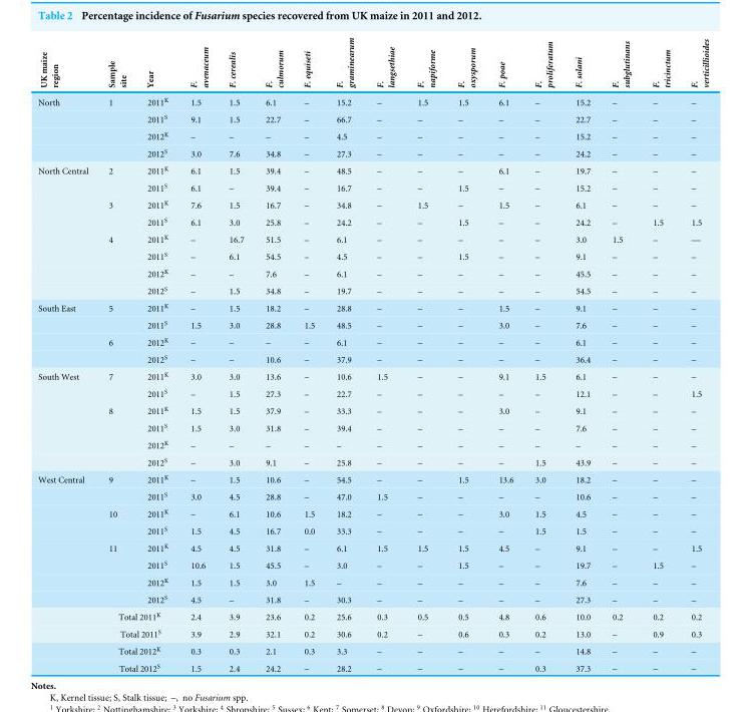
<table><thead><tr><td>UK maize region</td><td>Sample site</td><td>Year</td><td>F. avenaceum</td><td>F. cerealis</td><td>F. culmorum</td><td>F. equiseti</td><td>F. graminearum</td><td>F. langsethiae</td><td>F. napiforme</td><td>F. oxysporum</td><td>F. poae</td><td>F. proliferatum</td><td>F. solani</td><td>F. subglutinans</td><td>F. tricinctum</td><td>F. verticillioides</td></tr></thead><tbody><tr><td rowspan="4">North</td><td>1</td><td>2011<sup>K</sup></td><td>1.5</td><td>1.5</td><td>6.1</td><td>–</td><td>15.2</td><td>–</td><td>1.5</td><td>1.5</td><td>6.1</td><td>–</td><td>15.2</td><td>–</td><td>–</td><td>–</td></tr><tr><td></td><td>2011<sup>S</sup></td><td>9.1</td><td>1.5</td><td>22.7</td><td>–</td><td>66.7</td><td>–</td><td>–</td><td>–</td><td>–</td><td>–</td><td>22.7</td><td>–</td><td>–</td><td>–</td></tr><tr><td></td><td>2012<sup>K</sup></td><td>–</td><td>–</td><td>–</td><td>–</td><td>4.5</td><td>–</td><td>–</td><td>–</td><td>–</td><td>–</td><td>15.2</td><td>–</td><td>–</td><td>–</td></tr><tr><td></td><td>2012<sup>S</sup></td><td>3.0</td><td>7.6</td><td>34.8</td><td>–</td><td>27.3</td><td>–</td><td>–</td><td>–</td><td>–</td><td>–</td><td>24.2</td><td>–</td><td>–</td><td>–</td></tr><tr><td rowspan="8">North Central</td><td>2</td><td>2011<sup>K</sup></td><td>6.1</td><td>1.5</td><td>39.4</td><td>–</td><td>48.5</td><td>–</td><td>–</td><td>–</td><td>6.1</td><td>–</td><td>19.7</td><td>–</td><td>–</td><td>–</td></tr><tr><td></td><td>2011<sup>S</sup></td><td>6.1</td><td>–</td><td>39.4</td><td>–</td><td>16.7</td><td>–</td><td>–</td><td>1.5</td><td>–</td><td>–</td><td>15.2</td><td>–</td><td>–</td><td>–</td></tr><tr><td>3</td><td>2011<sup>K</sup></td><td>7.6</td><td>1.5</td><td>16.7</td><td>–</td><td>34.8</td><td>–</td><td>1.5</td><td>–</td><td>1.5</td><td>–</td><td>6.1</td><td>–</td><td>–</td><td>–</td></tr><tr><td></td><td>2011<sup>S</sup></td><td>6.1</td><td>3.0</td><td>25.8</td><td>–</td><td>24.2</td><td>–</td><td>–</td><td>1.5</td><td>–</td><td>–</td><td>24.2</td><td>–</td><td>1.5</td><td>1.5</td></tr><tr><td>4</td><td>2011<sup>K</sup></td><td>–</td><td>16.7</td><td>51.5</td><td>–</td><td>6.1</td><td>–</td><td>–</td><td>–</td><td>–</td><td>–</td><td>3.0</td><td>1.5</td><td>–</td><td>—</td></tr><tr><td></td><td>2011<sup>S</sup></td><td>–</td><td>6.1</td><td>54.5</td><td>–</td><td>4.5</td><td>–</td><td>–</td><td>1.5</td><td>–</td><td>–</td><td>9.1</td><td>–</td><td>–</td><td>–</td></tr><tr><td></td><td>2012<sup>K</sup></td><td>–</td><td>–</td><td>7.6</td><td>–</td><td>6.1</td><td>–</td><td>–</td><td>–</td><td>–</td><td>–</td><td>45.5</td><td>–</td><td>–</td><td>–</td></tr><tr><td></td><td>2012<sup>S</sup></td><td>–</td><td>1.5</td><td>34.8</td><td>–</td><td>19.7</td><td>–</td><td>–</td><td>–</td><td>–</td><td>–</td><td>54.5</td><td>–</td><td>–</td><td>–</td></tr><tr><td rowspan="4">South East</td><td>5</td><td>2011<sup>K</sup></td><td>–</td><td>1.5</td><td>18.2</td><td>–</td><td>28.8</td><td>–</td><td>–</td><td>–</td><td>1.5</td><td>–</td><td>9.1</td><td>–</td><td>–</td><td>–</td></tr><tr><td></td><td>2011<sup>S</sup></td><td>1.5</td><td>3.0</td><td>28.8</td><td>1.5</td><td>48.5</td><td>–</td><td>–</td><td>–</td><td>3.0</td><td>–</td><td>7.6</td><td>–</td><td>–</td><td>–</td></tr><tr><td>6</td><td>2012<sup>K</sup></td><td>–</td><td>–</td><td>–</td><td>–</td><td>6.1</td><td>–</td><td>–</td><td>–</td><td>–</td><td>–</td><td>6.1</td><td>–</td><td>–</td><td>–</td></tr><tr><td></td><td>2012<sup>S</sup></td><td>–</td><td>–</td><td>10.6</td><td>–</td><td>37.9</td><td>–</td><td>–</td><td>–</td><td>–</td><td>–</td><td>36.4</td><td>–</td><td>–</td><td>–</td></tr><tr><td rowspan="6">South West</td><td>7</td><td>2011<sup>K</sup></td><td>3.0</td><td>3.0</td><td>13.6</td><td>–</td><td>10.6</td><td>1.5</td><td>–</td><td>–</td><td>9.1</td><td>1.5</td><td>6.1</td><td>–</td><td>–</td><td>–</td></tr><tr><td></td><td>2011<sup>S</sup></td><td>–</td><td>1.5</td><td>27.3</td><td>–</td><td>22.7</td><td>–</td><td>–</td><td>–</td><td>–</td><td>–</td><td>12.1</td><td>–</td><td>–</td><td>1.5</td></tr><tr><td>8</td><td>2011<sup>K</sup></td><td>1.5</td><td>1.5</td><td>37.9</td><td>–</td><td>33.3</td><td>–</td><td>–</td><td>–</td><td>3.0</td><td>–</td><td>9.1</td><td>–</td><td>–</td><td>–</td></tr><tr><td></td><td>2011<sup>S</sup></td><td>1.5</td><td>3.0</td><td>31.8</td><td>–</td><td>39.4</td><td>–</td><td>–</td><td>–</td><td>–</td><td>–</td><td>7.6</td><td>–</td><td>–</td><td>–</td></tr><tr><td></td><td>2012<sup>K</sup></td><td>–</td><td>–</td><td>–</td><td>–</td><td>–</td><td>–</td><td>–</td><td>–</td><td>–</td><td>–</td><td>–</td><td>–</td><td>–</td><td>–</td></tr><tr><td></td><td>2012<sup>S</sup></td><td>–</td><td>3.0</td><td>9.1</td><td>–</td><td>25.8</td><td>–</td><td>–</td><td>–</td><td>–</td><td>1.5</td><td>43.9</td><td>–</td><td>–</td><td>–</td></tr><tr><td rowspan="12">West Central</td><td>9</td><td>2011<sup>K</sup></td><td>–</td><td>1.5</td><td>10.6</td><td>–</td><td>54.5</td><td>–</td><td>–</td><td>1.5</td><td>13.6</td><td>3.0</td><td>18.2</td><td>–</td><td>–</td><td>–</td></tr><tr><td></td><td>2011<sup>S</sup></td><td>3.0</td><td>4.5</td><td>28.8</td><td>–</td><td>47.0</td><td>1.5</td><td>–</td><td>–</td><td>–</td><td>–</td><td>10.6</td><td>–</td><td>–</td><td>–</td></tr><tr><td>10</td><td>2011<sup>K</sup></td><td>–</td><td>6.1</td><td>10.6</td><td>1.5</td><td>18.2</td><td>–</td><td>–</td><td>–</td><td>3.0</td><td>1.5</td><td>4.5</td><td>–</td><td>–</td><td>–</td></tr><tr><td></td><td>2011<sup>S</sup></td><td>1.5</td><td>4.5</td><td>16.7</td><td>0.0</td><td>33.3</td><td>–</td><td>–</td><td>–</td><td>–</td><td>1.5</td><td>1.5</td><td>–</td><td>–</td><td>–</td></tr><tr><td>11</td><td>2011<sup>K</sup></td><td>4.5</td><td>4.5</td><td>31.8</td><td>–</td><td>6.1</td><td>1.5</td><td>1.5</td><td>1.5</td><td>4.5</td><td>–</td><td>9.1</td><td>–</td><td>–</td><td>1.5</td></tr><tr><td></td><td>2011<sup>S</sup></td><td>10.6</td><td>1.5</td><td>45.5</td><td>–</td><td>3.0</td><td>–</td><td>–</td><td>1.5</td><td>–</td><td>–</td><td>19.7</td><td>–</td><td>1.5</td><td>–</td></tr><tr><td></td><td>2012<sup>K</sup></td><td>1.5</td><td>1.5</td><td>3.0</td><td>1.5</td><td>–</td><td>–</td><td>–</td><td>–</td><td>–</td><td>–</td><td>7.6</td><td>–</td><td>–</td><td>–</td></tr><tr><td></td><td>2012<sup>S</sup></td><td>4.5</td><td>–</td><td>31.8</td><td>–</td><td>30.3</td><td>–</td><td>–</td><td>–</td><td>–</td><td>–</td><td>27.3</td><td>–</td><td>–</td><td>–</td></tr><tr><td colspan="2">Total 2011<sup>K</sup></td><td>2.4</td><td>3.9</td><td>23.6</td><td>0.2</td><td>25.6</td><td>0.3</td><td>0.5</td><td>0.5</td><td>4.8</td><td>0.6</td><td>10.0</td><td>0.2</td><td>0.2</td><td>0.2</td></tr><tr><td colspan="2">Total 2011<sup>S</sup></td><td>3.9</td><td>2.9</td><td>32.1</td><td>0.2</td><td>30.6</td><td>0.2</td><td>–</td><td>0.6</td><td>0.3</td><td>0.2</td><td>13.0</td><td>–</td><td>0.9</td><td>0.3</td></tr><tr><td colspan="2">Total 2012<sup>K</sup></td><td>0.3</td><td>0.3</td><td>2.1</td><td>0.3</td><td>3.3</td><td>–</td><td>–</td><td>–</td><td>–</td><td>–</td><td>14.8</td><td>–</td><td>–</td><td>–</td></tr><tr><td colspan="2">Total 2012<sup>S</sup></td><td>1.5</td><td>2.4</td><td>24.2</td><td>–</td><td>28.2</td><td>–</td><td>–</td><td>–</td><td>–</td><td>0.3</td><td>37.3</td><td>–</td><td>–</td><td>–</td></tr></tbody></table>